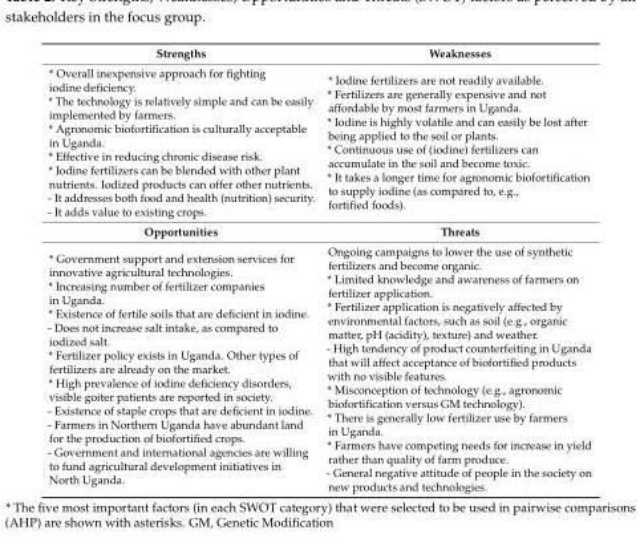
<table><thead><tr><td>Strengths</td><td>Weaknesses</td></tr></thead><tbody><tr><td>* Overall inexpensive approach for fighting iodine deficiency. * The technology is relatively simple and can be easily implemented by farmers. * Agronomic biofortification is culturally acceptable in Uganda. * Effective in reducing chronic disease risk. * Iodine fertilizers can be blended with other plant nutrients. Iodized products can offer other nutrients. - It addresses both food and health (nutrition) security. - It adds value to existing crops.</td><td>* Iodine fertilizers are not readily available. * Fertilizers are generally expensive and not affordable by most farmers in Uganda. * Iodine is highly volatile and can easily be lost after being applied to the soil or plants. * Continuous use of (iodine) fertilizers can accumulate in the soil and become toxic. * It takes a longer time for agronomic biofortification to supply iodine (as compared to, e.g., fortified foods).</td></tr><tr><td>Opportunities</td><td>Threats</td></tr><tr><td>* Government support and extension services for innovative agricultural technologies. * Increasing number of fertilizer companies in Uganda. * Existence of fertile soils that are deficient in iodine. - Does not increase salt intake, as compared to iodized salt. * Fertilizer policy exists in Uganda. Other types of fertilizers are already on the market. * High prevalence of iodine deficiency disorders, visible goiter patients are reported in society. - Existence of staple crops that are deficient in iodine. - Farmers in Northern Uganda have abundant land for the production of biofortified crops. - Government and international agencies are willing to fund agricultural development initiatives in North Uganda.</td><td>Ongoing campaigns to lower the use of synthetic fertilizers and become organic. * Limited knowledge and awareness of farmers on fertilizer application. * Fertilizer application is negatively affected by environmental factors, such as soil (e.g., organic matter, pH (acidity), texture) and weather. - High tendency of product counterfeiting in Uganda that will affect acceptance of biofortified products with no visible features. * Misconception of technology (e.g., agronomic biofortification versus GM technology). * There is generally low fertilizer use by farmers in Uganda. * Farmers have competing needs for increase in yield rather than quality of farm produce. - General negative attitude of people in the society on new products and technologies.</td></tr></tbody></table>